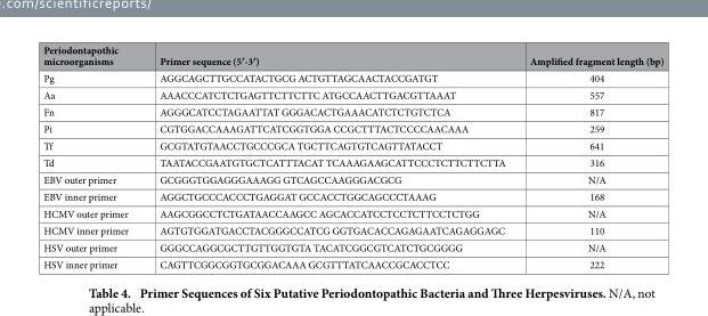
<table><thead><tr><td>Periodontapothic microorganisms</td><td>Primer sequence (5′-3′)</td><td>Amplified fragment length (bp)</td></tr></thead><tbody><tr><td>Pg</td><td>AGGCAGCTTGCCATACTGCG ACTGTTAGCAACTACCGATGT</td><td>404</td></tr><tr><td>Aa</td><td>AAACCCATCTCTGAGTTCTTCTTC ATGCCAACTTGACGTTAAAT</td><td>557</td></tr><tr><td>Fn</td><td>AGGGCATCCTAGAATTAT GGGACACTGAAACATCTCTGTCTCA</td><td>817</td></tr><tr><td>Pi</td><td>CGTGGACCAAAGATTCATCGGTGGA CCGCTTTACTCCCCAACAAA</td><td>259</td></tr><tr><td>Tf</td><td>GCGTATGTAACCTGCCCGCA TGCTTCAGTGTCAGTTATACCT</td><td>641</td></tr><tr><td>Td</td><td>TAATACCGAATGTGCTCATTTACAT TCAAAGAAGCATTCCCTCTTCTTCTTA</td><td>316</td></tr><tr><td>EBV outer primer</td><td>GCGGGTGGAGGGAAAGG GTCAGCCAAGGGACGCG</td><td>N/A</td></tr><tr><td>EBV inner primer</td><td>AGGCTGCCCACCCTGAGGAT GCCACCTGGCAGCCCTAAAG</td><td>168</td></tr><tr><td>HCMV outer primer</td><td>AAGCGGCCTCTGATAACCAAGCC AGCACCATCCTCCTCTTCCTCTGG</td><td>N/A</td></tr><tr><td>HCMV inner primer</td><td>AGTGTGGATGACCTACGGGCCATCG GGTGACACCAGAGAATCAGAGGAGC</td><td>110</td></tr><tr><td>HSV outer primer</td><td>GGGCCAGGCGCTTGTTGGTGTA TACATCGGCGTCATCTGCGGGG</td><td>N/A</td></tr><tr><td>HSV inner primer</td><td>CAGTTCGGCGGTGCGGACAAA GCGTTTATCAACCGCACCTCC</td><td>222</td></tr></tbody></table>